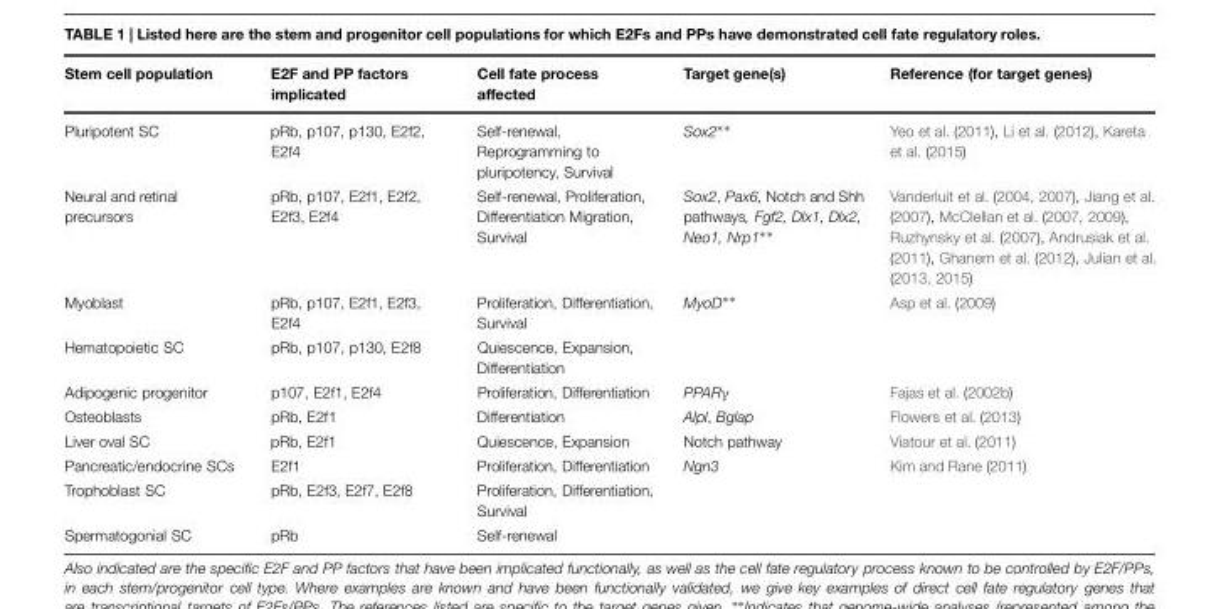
<table><thead><tr><td>Stem cell population</td><td>E2F and PP factors implicated</td><td>Cell fate process affected</td><td>Target gene(s)</td><td>Reference (for target genes)</td></tr></thead><tbody><tr><td>Pluripotent SC</td><td>pRb, p107, p130, E2f2, E2f4</td><td>Self-renewal, Reprogramming to pluripotency, Survival</td><td>Sox2∗∗</td><td>Yeo et al. (2011), Li et al. (2012), Kareta et al. (2015)</td></tr><tr><td>Neural and retinal precursors</td><td>pRb, p107, E2f1, E2f2, E2f3, E2f4</td><td>Self-renewal, Proliferation, Differentiation Migration, Survival</td><td>Sox2, Pax6, Notch and Shh pathways, Fgf2, Dlx1, Dlx2, Neo1, Nrp1∗∗</td><td>Vanderluit et al. (2004, 2007), Jiang et al. (2007), McClellan et al. (2007, 2009), Ruzhynsky et al. (2007), Andrusiak et al. (2011), Ghanem et al. (2012), Julian et al. (2013, 2015)</td></tr><tr><td>Myoblast</td><td>pRb, p107, E2f1, E2f3, E2f4</td><td>Proliferation, Differentiation, Survival</td><td>MyoD∗∗</td><td>Asp et al. (2009)</td></tr><tr><td>Hematopoietic SC</td><td>pRb, p107, p130, E2f8</td><td>Quiescence, Expansion, Differentiation</td><td></td><td></td></tr><tr><td>Adipogenic progenitor</td><td>p107, E2f1, E2f4</td><td>Proliferation, Differentiation</td><td>PPARγ</td><td>Fajas et al. (2002b)</td></tr><tr><td>Osteoblasts</td><td>pRb, E2f1</td><td>Differentiation</td><td>Alpl, Bglap</td><td>Flowers et al. (2013)</td></tr><tr><td>Liver oval SC</td><td>pRb, E2f1</td><td>Quiescence, Expansion</td><td>Notch pathway</td><td>Viatour et al. (2011)</td></tr><tr><td>Pancreatic/endocrine SCs</td><td>E2f1</td><td>Proliferation, Differentiation</td><td>Ngn3</td><td>Kim and Rane (2011)</td></tr><tr><td>Trophoblast SC</td><td>pRb, E2f3, E2f7, E2f8</td><td>Proliferation, Differentiation, Survival</td><td></td><td></td></tr><tr><td>Spermatogonial SC</td><td>pRb</td><td>Self-renewal</td><td></td><td></td></tr></tbody></table>